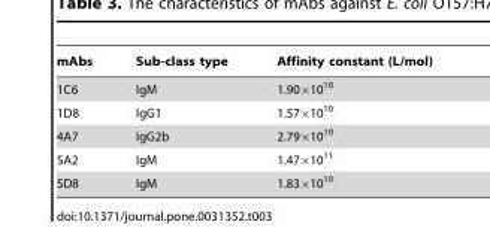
<table><thead><tr><td>mAbs</td><td>Sub-class type</td><td>Affinity constant (L/mol)</td></tr></thead><tbody><tr><td>1C6</td><td>IgM</td><td>1.90×10<sup>10</sup></td></tr><tr><td>1D8</td><td>IgG1</td><td>1.57×10<sup>10</sup></td></tr><tr><td>4A7</td><td>IgG2b</td><td>2.79×10<sup>10</sup></td></tr><tr><td>5A2</td><td>IgM</td><td>1.47×10<sup>11</sup></td></tr><tr><td>5D8</td><td>IgM</td><td>1.83×10<sup>10</sup></td></tr></tbody></table>